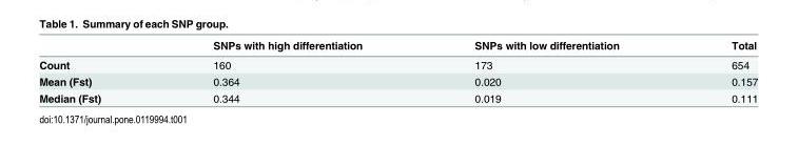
<table><thead><tr><td></td><td>SNPs with high differentiation</td><td>SNPs with low differentiation</td><td>Total</td></tr></thead><tbody><tr><td>Count</td><td>160</td><td>173</td><td>654</td></tr><tr><td>Mean (Fst)</td><td>0.364</td><td>0.020</td><td>0.157</td></tr><tr><td>Median (Fst)</td><td>0.344</td><td>0.019</td><td>0.111</td></tr></tbody></table>